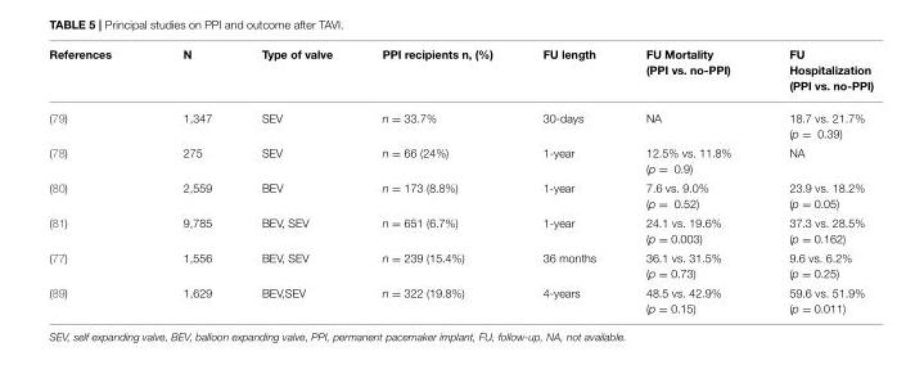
<table><thead><tr><td>References</td><td>N</td><td>Type of valve</td><td>PPI recipients n, (%)</td><td>FU length</td><td>FU Mortality (PPI vs. no-PPI)</td><td>FU Hospitalization (PPI vs. no-PPI)</td></tr></thead><tbody><tr><td>(79)</td><td>1,347</td><td>SEV</td><td>n = 33.7%</td><td>30-days</td><td>NA</td><td>18.7 vs. 21.7% (p = 0.39)</td></tr><tr><td>(78)</td><td>275</td><td>SEV</td><td>n = 66 (24%)</td><td>1-year</td><td>12.5% vs. 11.8% (p = 0.9)</td><td>NA</td></tr><tr><td>(80)</td><td>2,559</td><td>BEV</td><td>n = 173 (8.8%)</td><td>1-year</td><td>7.6 vs. 9.0% (p = 0.52)</td><td>23.9 vs. 18.2% (p = 0.05)</td></tr><tr><td>(81)</td><td>9,785</td><td>BEV, SEV</td><td>n = 651 (6.7%)</td><td>1-year</td><td>24.1 vs. 19.6% (p = 0.003)</td><td>37.3 vs. 28.5% (p = 0.162)</td></tr><tr><td>(77)</td><td>1,556</td><td>BEV, SEV</td><td>n = 239 (15.4%)</td><td>36 months</td><td>36.1 vs. 31.5% (p = 0.73)</td><td>9.6 vs. 6.2% (p = 0.25)</td></tr><tr><td>(89)</td><td>1,629</td><td>BEV,SEV</td><td>n = 322 (19.8%)</td><td>4-years</td><td>48.5 vs. 42.9% (p = 0.15)</td><td>59.6 vs. 51.9% (p = 0.011)</td></tr></tbody></table>